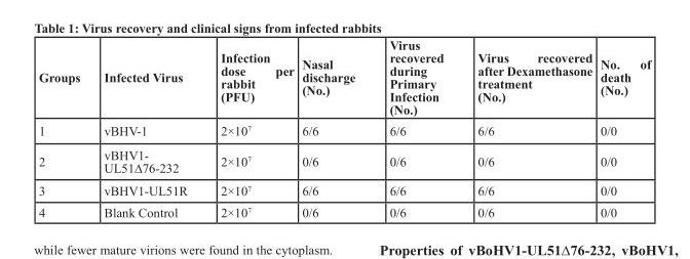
<table><thead><tr><td>Groups</td><td>Infected Virus</td><td>Infection dose per rabbit (PFU)</td><td>Nasal discharge (No.)</td><td>Virus recovered during Primary Infection (No.)</td><td>Virus recovered after Dexamethasone treatment (No.)</td><td>No. of death (No.)</td></tr></thead><tbody><tr><td>1</td><td>vBHV-1</td><td>2×10<sup>7</sup></td><td>6/6</td><td>6/6</td><td>6/6</td><td>0/0</td></tr><tr><td>2</td><td>vBHV1- UL51∆76-232</td><td>2×10<sup>7</sup></td><td>0/6</td><td>0/6</td><td>0/6</td><td>0/0</td></tr><tr><td>3</td><td>vBHV1-UL51R</td><td>2×10<sup>7</sup></td><td>6/6</td><td>6/6</td><td>6/6</td><td>0/0</td></tr><tr><td>4</td><td>Blank Control</td><td>2×10<sup>7</sup></td><td>0/6</td><td>0/6</td><td>0/6</td><td>0/0</td></tr></tbody></table>